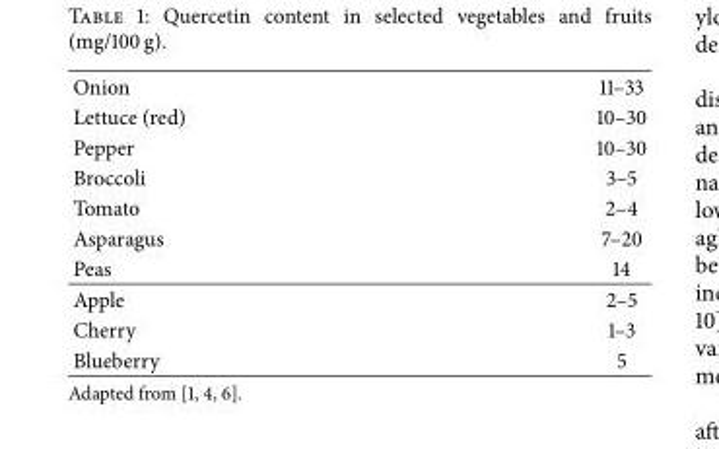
<table><tbody><tr><td>Onion</td><td>11–33</td></tr><tr><td>Lettuce (red)</td><td>10–30</td></tr><tr><td>Pepper</td><td>10–30</td></tr><tr><td>Broccoli</td><td>3–5</td></tr><tr><td>Tomato</td><td>2–4</td></tr><tr><td>Asparagus</td><td>7–20</td></tr><tr><td>Peas</td><td>14</td></tr><tr><td>Apple</td><td>2–5</td></tr><tr><td>Cherry</td><td>1–3</td></tr><tr><td>Blueberry</td><td>5</td></tr></tbody></table>